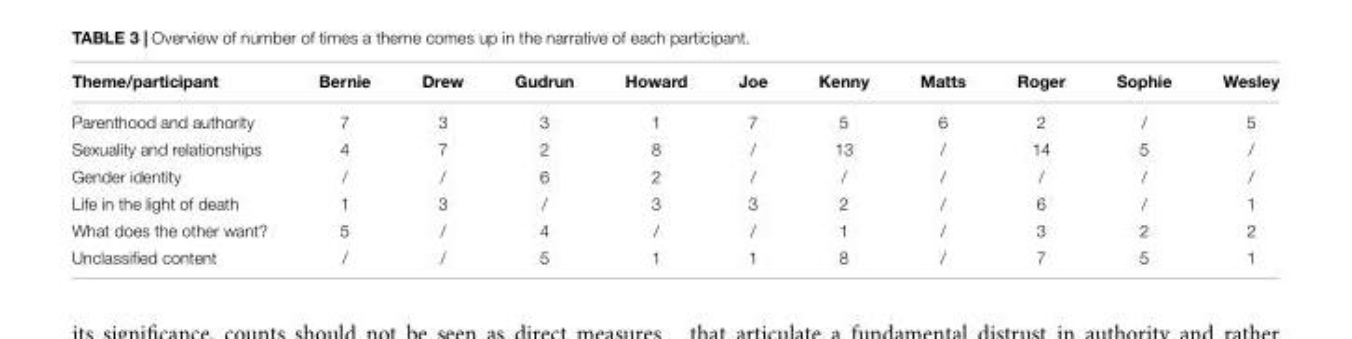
<table><thead><tr><td>Theme/participant</td><td>Bernie</td><td>Drew</td><td>Gudrun</td><td>Howard</td><td>Joe</td><td>Kenny</td><td>Matts</td><td>Roger</td><td>Sophie</td><td>Wesley</td></tr></thead><tbody><tr><td>Parenthood and authority</td><td>7</td><td>3</td><td>3</td><td>1</td><td>7</td><td>5</td><td>6</td><td>2</td><td>/</td><td>5</td></tr><tr><td>Sexuality and relationships</td><td>4</td><td>7</td><td>2</td><td>8</td><td>/</td><td>13</td><td>/</td><td>14</td><td>5</td><td>/</td></tr><tr><td>Gender identity</td><td>/</td><td>/</td><td>6</td><td>2</td><td>/</td><td>/</td><td>/</td><td>/</td><td>/</td><td>/</td></tr><tr><td>Life in the light of death</td><td>1</td><td>3</td><td>/</td><td>3</td><td>3</td><td>2</td><td>/</td><td>6</td><td>/</td><td>1</td></tr><tr><td>What does the other want?</td><td>5</td><td>/</td><td>4</td><td>/</td><td>/</td><td>1</td><td>/</td><td>3</td><td>2</td><td>2</td></tr><tr><td>Unclassified content</td><td>/</td><td>/</td><td>5</td><td>1</td><td>1</td><td>8</td><td>/</td><td>7</td><td>5</td><td>1</td></tr></tbody></table>